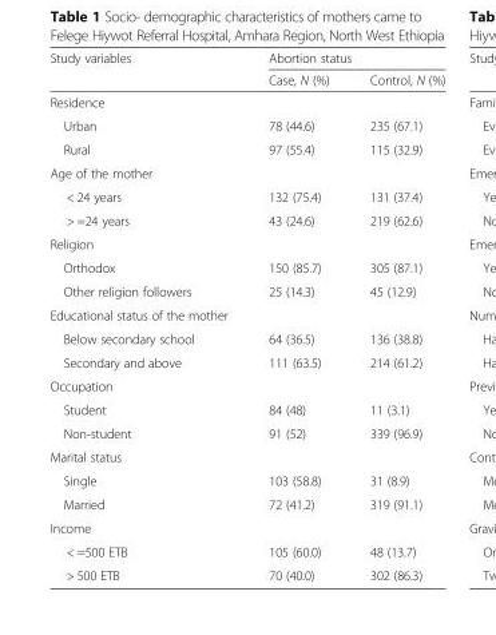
<table><thead><tr><td rowspan="2">Study variables</td><td colspan="2">Abortion status</td></tr><tr><td>Case, N (%)</td><td>Control, N (%)</td></tr></thead><tbody><tr><td colspan="3">Residence</td></tr><tr><td>Urban</td><td>78 (44.6)</td><td>235 (67.1)</td></tr><tr><td>Rural</td><td>97 (55.4)</td><td>115 (32.9)</td></tr><tr><td colspan="3">Age of the mother</td></tr><tr><td>&lt; 24 years</td><td>132 (75.4)</td><td>131 (37.4)</td></tr><tr><td>&gt; =24 years</td><td>43 (24.6)</td><td>219 (62.6)</td></tr><tr><td colspan="3">Religion</td></tr><tr><td>Orthodox</td><td>150 (85.7)</td><td>305 (87.1)</td></tr><tr><td>Other religion followers</td><td>25 (14.3)</td><td>45 (12.9)</td></tr><tr><td colspan="3">Educational status of the mother</td></tr><tr><td>Below secondary school</td><td>64 (36.5)</td><td>136 (38.8)</td></tr><tr><td>Secondary and above</td><td>111 (63.5)</td><td>214 (61.2)</td></tr><tr><td colspan="3">Occupation</td></tr><tr><td>Student</td><td>84 (48)</td><td>11 (3.1)</td></tr><tr><td>Non-student</td><td>91 (52)</td><td>339 (96.9)</td></tr><tr><td colspan="3">Marital status</td></tr><tr><td>Single</td><td>103 (58.8)</td><td>31 (8.9)</td></tr><tr><td>Married</td><td>72 (41.2)</td><td>319 (91.1)</td></tr><tr><td colspan="3">Income</td></tr><tr><td>&lt; =500 ETB</td><td>105 (60.0)</td><td>48 (13.7)</td></tr><tr><td>&gt; 500 ETB</td><td>70 (40.0)</td><td>302 (86.3)</td></tr></tbody></table>